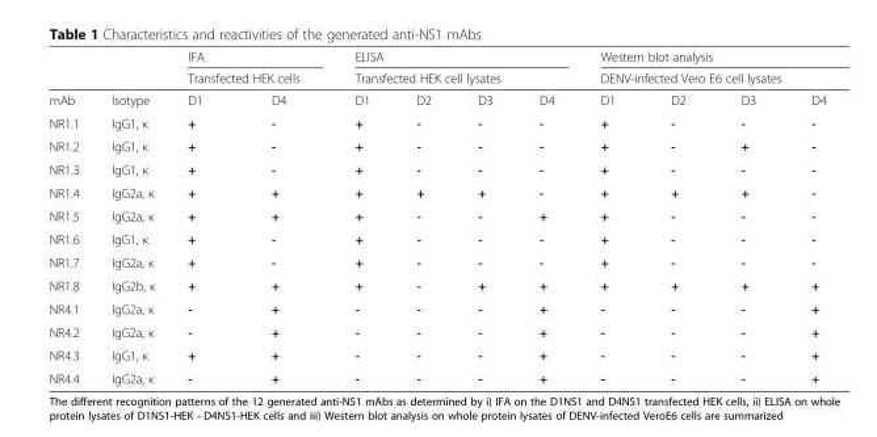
<table><thead><tr><td rowspan="3">mAb</td><td rowspan="3">Isotype</td><td rowspan="2" colspan="2">IFA Transfected HEK cells</td><td rowspan="2" colspan="4">ELISA Transfected HEK cell lysates</td><td rowspan="2" colspan="4">Western blot analysis DENV-infected Vero E6 cell lysates</td></tr><tr></tr><tr><td>D1</td><td>D4</td><td>D1</td><td>D2</td><td>D3</td><td>D4</td><td>D1</td><td>D2</td><td>D3</td><td>D4</td></tr></thead><tbody><tr><td>NR1.1</td><td>IgG1, κ</td><td>+</td><td>-</td><td>+</td><td>-</td><td>-</td><td>-</td><td>+</td><td>-</td><td>-</td><td>-</td></tr><tr><td>NR1.2</td><td>IgG1, κ</td><td>+</td><td>-</td><td>+</td><td>-</td><td>-</td><td>-</td><td>+</td><td>-</td><td>+</td><td>-</td></tr><tr><td>NR1.3</td><td>IgG1, κ</td><td>+</td><td>-</td><td>+</td><td>-</td><td>-</td><td>-</td><td>+</td><td>-</td><td>-</td><td>-</td></tr><tr><td>NR1.4</td><td>IgG2a, κ</td><td>+</td><td>+</td><td>+</td><td>+</td><td>+</td><td>-</td><td>+</td><td>+</td><td>+</td><td>-</td></tr><tr><td>NR1.5</td><td>IgG2a, κ</td><td>+</td><td>+</td><td>+</td><td>-</td><td>-</td><td>+</td><td>+</td><td>-</td><td>-</td><td>-</td></tr><tr><td>NR1.6</td><td>IgG1, κ</td><td>+</td><td>-</td><td>+</td><td>-</td><td>-</td><td>-</td><td>+</td><td>-</td><td>-</td><td>-</td></tr><tr><td>NR1.7</td><td>IgG2a, κ</td><td>+</td><td>-</td><td>+</td><td>-</td><td>-</td><td>-</td><td>+</td><td>-</td><td>-</td><td>-</td></tr><tr><td>NR1.8</td><td>IgG2b, κ</td><td>+</td><td>+</td><td>+</td><td>-</td><td>+</td><td>+</td><td>+</td><td>+</td><td>+</td><td>+</td></tr><tr><td>NR4.1</td><td>IgG2a, κ</td><td>-</td><td>+</td><td>-</td><td>-</td><td>-</td><td>+</td><td>-</td><td>-</td><td>-</td><td>+</td></tr><tr><td>NR4.2</td><td>IgG2a, κ</td><td>-</td><td>+</td><td>-</td><td>-</td><td>-</td><td>+</td><td>-</td><td>-</td><td>-</td><td>+</td></tr><tr><td>NR4.3</td><td>IgG1, κ</td><td>+</td><td>+</td><td>-</td><td>-</td><td>-</td><td>+</td><td>-</td><td>-</td><td>-</td><td>+</td></tr><tr><td>NR4.4</td><td>IgG2a, κ</td><td>-</td><td>+</td><td>-</td><td>-</td><td>-</td><td>+</td><td>-</td><td>-</td><td>-</td><td>+</td></tr></tbody></table>